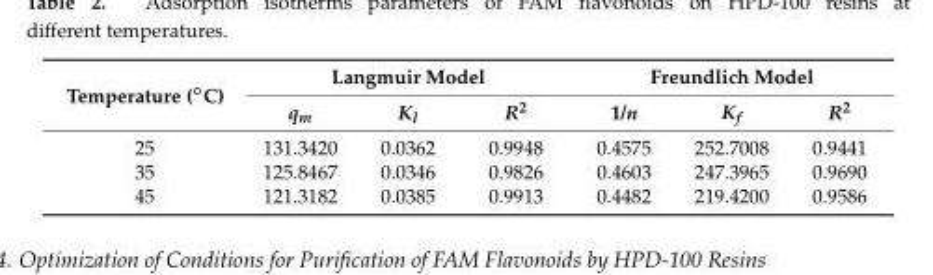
<table><thead><tr><td rowspan="2">Temperature (◦C)</td><td colspan="3">Langmuir Model</td><td colspan="3">Freundlich Model</td></tr><tr><td>q<sub>m</sub></td><td>K<sub>l</sub></td><td>R<sup>2</sup></td><td>1/n</td><td>K<sub>f</sub></td><td>R<sup>2</sup></td></tr></thead><tbody><tr><td>25</td><td>131.3420</td><td>0.0362</td><td>0.9948</td><td>0.4575</td><td>252.7008</td><td>0.9441</td></tr><tr><td>35</td><td>125.8467</td><td>0.0346</td><td>0.9826</td><td>0.4603</td><td>247.3965</td><td>0.9690</td></tr><tr><td>45</td><td>121.3182</td><td>0.0385</td><td>0.9913</td><td>0.4482</td><td>219.4200</td><td>0.9586</td></tr></tbody></table>